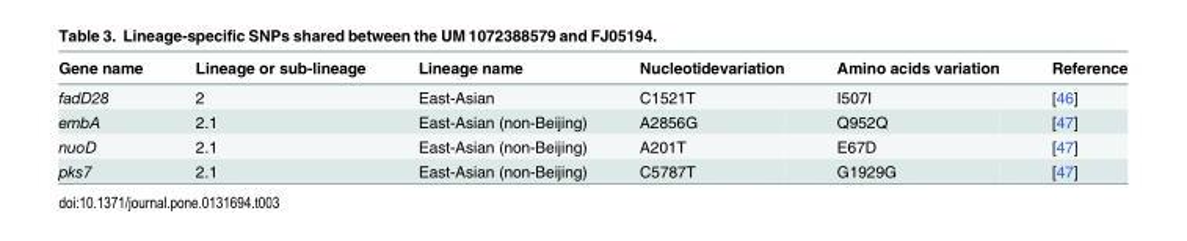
<table><thead><tr><td>Gene name</td><td>Lineage or sub-lineage</td><td>Lineage name</td><td>Nucleotidevariation</td><td>Amino acids variation</td><td>Reference</td></tr></thead><tbody><tr><td>fadD28</td><td>2</td><td>East-Asian</td><td>C1521T</td><td>I507I</td><td>[46]</td></tr><tr><td>embA</td><td>2.1</td><td>East-Asian (non-Beijing)</td><td>A2856G</td><td>Q952Q</td><td>[47]</td></tr><tr><td>nuoD</td><td>2.1</td><td>East-Asian (non-Beijing)</td><td>A201T</td><td>E67D</td><td>[47]</td></tr><tr><td>pks7</td><td>2.1</td><td>East-Asian (non-Beijing)</td><td>C5787T</td><td>G1929G</td><td>[47]</td></tr></tbody></table>